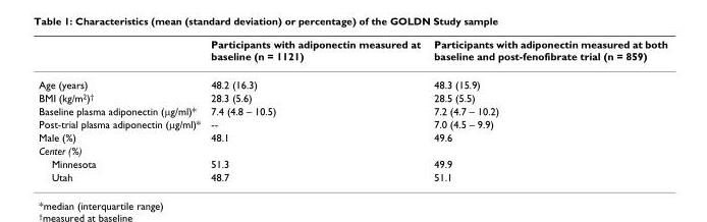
<table><thead><tr><td></td><td>Participants with adiponectin measured at baseline (n = 1121)</td><td>Participants with adiponectin measured at both baseline and post-fenofibrate trial (n = 859)</td></tr></thead><tbody><tr><td>Age (years)</td><td>48.2 (16.3)</td><td>48.3 (15.9)</td></tr><tr><td>BMI (kg/m<sup>2</sup>)<sup>†</sup></td><td>28.3 (5.6)</td><td>28.5 (5.5)</td></tr><tr><td>Baseline plasma adiponectin (μg/ml)*</td><td>7.4 (4.8 – 10.5)</td><td>7.2 (4.7 – 10.2)</td></tr><tr><td>Post-trial plasma adiponectin (μg/ml)*</td><td>--</td><td>7.0 (4.5 – 9.9)</td></tr><tr><td>Male (%)</td><td>48.1</td><td>49.6</td></tr><tr><td colspan="3">Center (%)</td></tr><tr><td>Minnesota</td><td>51.3</td><td>49.9</td></tr><tr><td>Utah</td><td>48.7</td><td>51.1</td></tr></tbody></table>